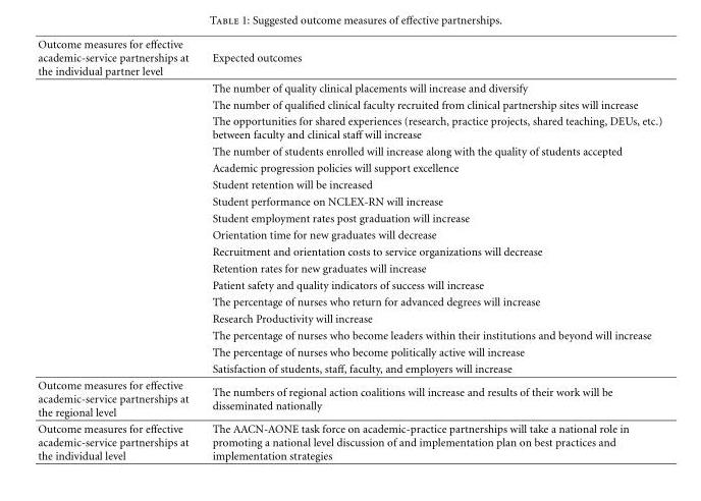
<table><thead><tr><td>Outcome measures for effective academic-service partnerships at the individual partner level</td><td>Expected outcomes</td></tr></thead><tbody><tr><td></td><td>The number of quality clinical placements will increase and diversify</td></tr><tr><td></td><td>The number of qualified clinical faculty recruited from clinical partnership sites will increase</td></tr><tr><td></td><td>The opportunities for shared experiences (research, practice projects, shared teaching, DEUs, etc.) between faculty and clinical staff will increase</td></tr><tr><td></td><td>The number of students enrolled will increase along with the quality of students accepted</td></tr><tr><td></td><td>Academic progression policies will support excellence</td></tr><tr><td></td><td>Student retention will be increased</td></tr><tr><td></td><td>Student performance on NCLEX-RN will increase</td></tr><tr><td></td><td>Student employment rates post graduation will increase</td></tr><tr><td></td><td>Orientation time for new graduates will decrease</td></tr><tr><td></td><td>Recruitment and orientation costs to service organizations will decrease</td></tr><tr><td></td><td>Retention rates for new graduates will increase</td></tr><tr><td></td><td>Patient safety and quality indicators of success will increase</td></tr><tr><td></td><td>The percentage of nurses who return for advanced degrees will increase</td></tr><tr><td></td><td>Research Productivity will increase</td></tr><tr><td></td><td>The percentage of nurses who become leaders within their institutions and beyond will increase</td></tr><tr><td></td><td>The percentage of nurses who become politically active will increase</td></tr><tr><td></td><td>Satisfaction of students, staff, faculty, and employers will increase</td></tr><tr><td>Outcome measures for effective academic-service partnerships at the regional level</td><td>The numbers of regional action coalitions will increase and results of their work will be disseminated nationally</td></tr><tr><td>Outcome measures for effective academic-service partnerships at the individual level</td><td>The AACN-AONE task force on academic-practice partnerships will take a national role in promoting a national level discussion of and implementation plan on best practices and implementation strategies</td></tr></tbody></table>